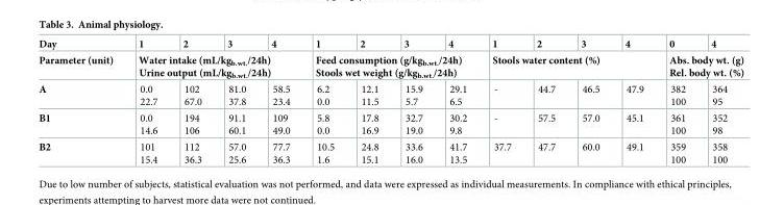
<table><thead><tr><td rowspan="2">Day Parameter (unit)</td><td>1</td><td>2</td><td>3</td><td>4</td><td>1</td><td>2</td><td>3</td><td>4</td><td>1</td><td>2</td><td>3</td><td>4</td><td>0</td><td>4</td></tr><tr><td colspan="4">Water intake (mL/kg<sub>b.wt.</sub>/24h) Urine output (mL/kg<sub>b.wt.</sub>/24h)</td><td colspan="4">Feed consumption (g/kg<sub>b.wt.</sub>/24h) Stools wet weight (g/kg<sub>b.wt.</sub>/24h)</td><td colspan="4">Stools water content (%)</td><td colspan="2">Abs. body wt. (g) Rel. body wt. (%)</td></tr></thead><tbody><tr><td>A</td><td>0.0 22.7</td><td>102 67.0</td><td>81.0 37.8</td><td>58.5 23.4</td><td>6.2 0.0</td><td>12.1 11.5</td><td>15.9 5.7</td><td>29.1 6.5</td><td>-</td><td>44.7</td><td>46.5</td><td>47.9</td><td>382 100</td><td>364 95</td></tr><tr><td>B1</td><td>0.0 14.6</td><td>194 106</td><td>91.1 60.1</td><td>109 49.0</td><td>5.8 0.0</td><td>17.8 16.9</td><td>32.7 19.0</td><td>30.2 9.8</td><td>-</td><td>57.5</td><td>57.0</td><td>45.1</td><td>361 100</td><td>352 98</td></tr><tr><td>B2</td><td>101 15.4</td><td>112 36.3</td><td>57.0 25.6</td><td>77.7 36.3</td><td>10.5 1.6</td><td>24.8 15.1</td><td>33.6 16.0</td><td>41.7 13.5</td><td>37.7</td><td>47.7</td><td>60.0</td><td>49.1</td><td>359 100</td><td>358 100</td></tr></tbody></table>